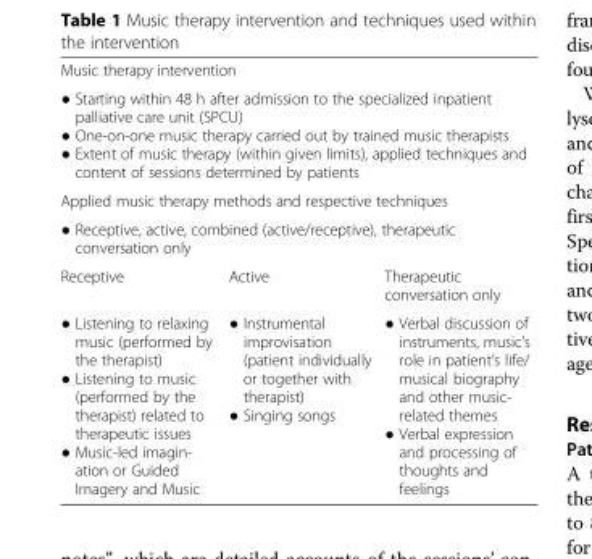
<table><tbody><tr><td colspan="3">Music therapy intervention</td></tr><tr><td colspan="3">● Starting within 48 h after admission to the specialized inpatient palliative care unit (SPCU) ● One-on-one music therapy carried out by trained music therapists ● Extent of music therapy (within given limits), applied techniques and content of sessions determined by patients</td></tr><tr><td colspan="3">Applied music therapy methods and respective techniques</td></tr><tr><td colspan="3">● Receptive, active, combined (active/receptive), therapeutic conversation only</td></tr><tr><td>Receptive</td><td>Active</td><td>Therapeutic conversation only</td></tr><tr><td>● Listening to relaxing music (performed by the therapist) ● Listening to music (performed by the therapist) related to therapeutic issues ● Music-led imagin- ation or Guided Imagery and Music</td><td>● Instrumental improvisation (patient individually or together with therapist) ● Singing songs</td><td>● Verbal discussion of instruments, music’s role in patient’s life/ musical biography and other music- related themes ● Verbal expression and processing of thoughts and feelings</td></tr></tbody></table>